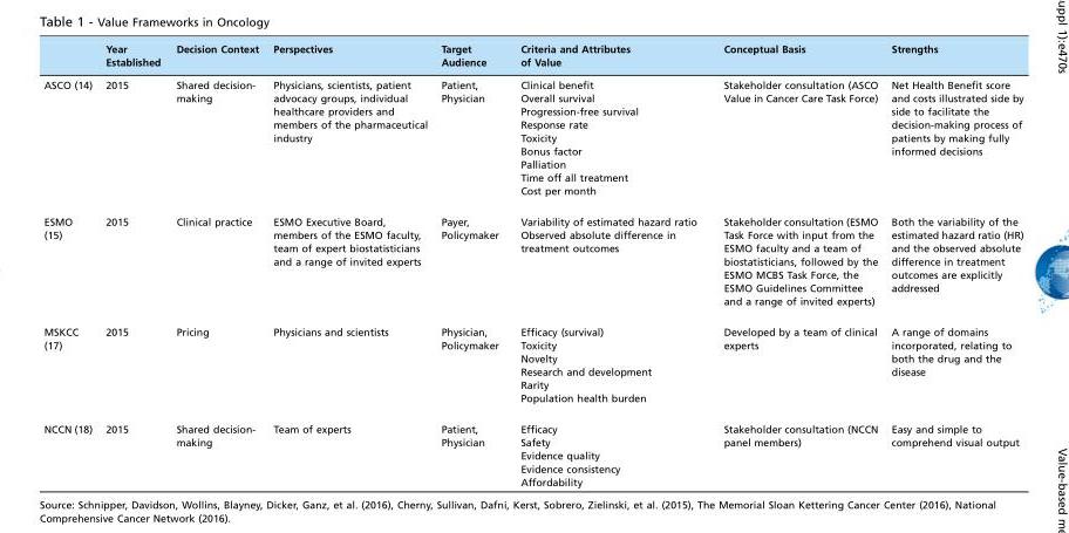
<table><thead><tr><td></td><td>Year Established</td><td>Decision Context</td><td>Perspectives</td><td>Target Audience</td><td>Criteria and Attributes of Value</td><td>Conceptual Basis</td><td>Strengths</td></tr></thead><tbody><tr><td>ASCO (14)</td><td>2015</td><td>Shared decision- making</td><td>Physicians, scientists, patient advocacy groups, individual healthcare providers and members of the pharmaceutical industry</td><td>Patient, Physician</td><td>Clinical benefit Overall survival Progression-free survival Response rate Toxicity Bonus factor Palliation Time off all treatment Cost per month</td><td>Stakeholder consultation (ASCO Value in Cancer Care Task Force)</td><td>Net Health Benefit score and costs illustrated side by side to facilitate the decision-making process of patients by making fully informed decisions</td></tr><tr><td>ESMO (15)</td><td>2015</td><td>Clinical practice</td><td>ESMO Executive Board, members of the ESMO faculty, team of expert biostatisticians and a range of invited experts</td><td>Payer, Policymaker</td><td>Variability of estimated hazard ratio Observed absolute difference in treatment outcomes</td><td>Stakeholder consultation (ESMO Task Force with input from the ESMO faculty and a team of biostatisticians, followed by the ESMO MCBS Task Force, the ESMO Guidelines Committee and a range of invited experts)</td><td>Both the variability of the estimated hazard ratio (HR) and the observed absolute difference in treatment outcomes are explicitly addressed</td></tr><tr><td>MSKCC (17)</td><td>2015</td><td>Pricing</td><td>Physicians and scientists</td><td>Physician, Policymaker</td><td>Efficacy (survival) Toxicity Novelty Research and development Rarity Population health burden</td><td>Developed by a team of clinical experts</td><td>A range of domains incorporated, relating to both the drug and the disease</td></tr><tr><td>NCCN (18)</td><td>2015</td><td>Shared decision- making</td><td>Team of experts</td><td>Patient, Physician</td><td>Efficacy Safety Evidence quality Evidence consistency Affordability</td><td>Stakeholder consultation (NCCN panel members)</td><td>Easy and simple to comprehend visual output</td></tr></tbody></table>